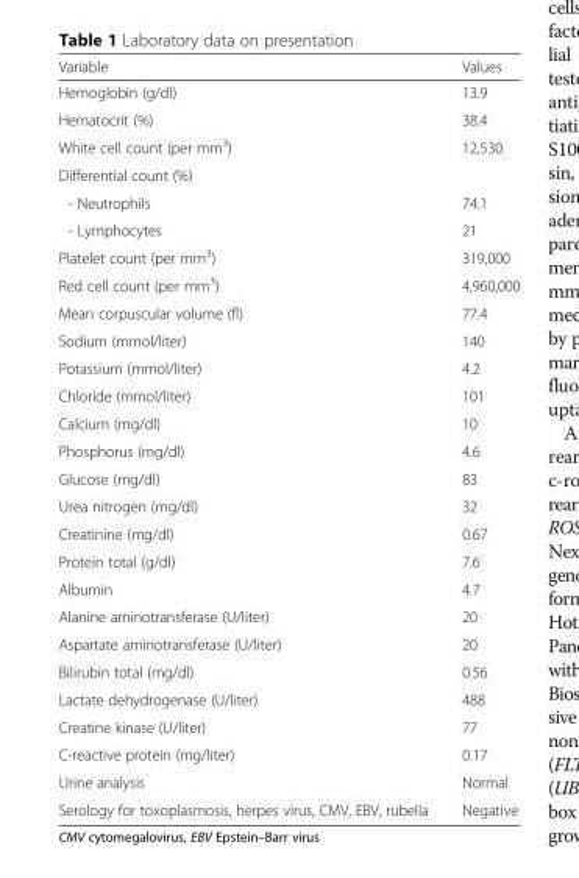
<table><thead><tr><td>Variable</td><td>Values</td></tr></thead><tbody><tr><td>Hemoglobin (g/dl)</td><td>13.9</td></tr><tr><td>Hematocrit (%)</td><td>38.4</td></tr><tr><td>White cell count (per mm<sup>3</sup>)</td><td>12,530</td></tr><tr><td colspan="2">Differential count (%)</td></tr><tr><td>- Neutrophils</td><td>74.1</td></tr><tr><td>- Lymphocytes</td><td>21</td></tr><tr><td>Platelet count (per mm<sup>3</sup>)</td><td>319,000</td></tr><tr><td>Red cell count (per mm<sup>3</sup>)</td><td>4,960,000</td></tr><tr><td>Mean corpuscular volume (fl)</td><td>77.4</td></tr><tr><td>Sodium (mmol/liter)</td><td>140</td></tr><tr><td>Potassium (mmol/liter)</td><td>4.2</td></tr><tr><td>Chloride (mmol/liter)</td><td>101</td></tr><tr><td>Calcium (mg/dl)</td><td>10</td></tr><tr><td>Phosphorus (mg/dl)</td><td>4.6</td></tr><tr><td>Glucose (mg/dl)</td><td>83</td></tr><tr><td>Urea nitrogen (mg/dl)</td><td>32</td></tr><tr><td>Creatinine (mg/dl)</td><td>0.67</td></tr><tr><td>Protein total (g/dl)</td><td>7.6</td></tr><tr><td>Albumin</td><td>4.7</td></tr><tr><td>Alanine aminotransferase (U/liter)</td><td>20</td></tr><tr><td>Aspartate aminotransferase (U/liter)</td><td>20</td></tr><tr><td>Bilirubin total (mg/dl)</td><td>0.56</td></tr><tr><td>Lactate dehydrogenase (U/liter)</td><td>488</td></tr><tr><td>Creatine kinase (U/liter)</td><td>77</td></tr><tr><td>C-reactive protein (mg/liter)</td><td>0.17</td></tr><tr><td>Urine analysis</td><td>Normal</td></tr><tr><td>Serology for toxoplasmosis, herpes virus, CMV, EBV, rubella</td><td>Negative</td></tr></tbody></table>